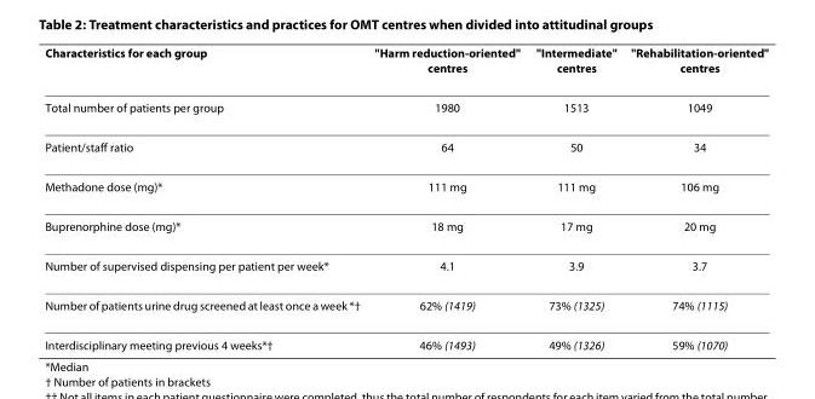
<table><thead><tr><td>Characteristics for each group</td><td>&quot;Harm reduction-oriented&quot; centres</td><td>&quot;Intermediate&quot; centres</td><td>&quot;Rehabilitation-oriented&quot; centres</td></tr></thead><tbody><tr><td>Total number of patients per group</td><td>1980</td><td>1513</td><td>1049</td></tr><tr><td>Patient/staff ratio</td><td>64</td><td>50</td><td>34</td></tr><tr><td>Methadone dose (mg)*</td><td>111 mg</td><td>111 mg</td><td>106 mg</td></tr><tr><td>Buprenorphine dose (mg)*</td><td>18 mg</td><td>17 mg</td><td>20 mg</td></tr><tr><td>Number of supervised dispensing per patient per week*</td><td>4.1</td><td>3.9</td><td>3.7</td></tr><tr><td>Number of patients urine drug screened at least once a week *†</td><td>62% (1419)</td><td>73% (1325)</td><td>74% (1115)</td></tr><tr><td>Interdisciplinary meeting previous 4 weeks*†</td><td>46% (1493)</td><td>49% (1326)</td><td>59% (1070)</td></tr></tbody></table>